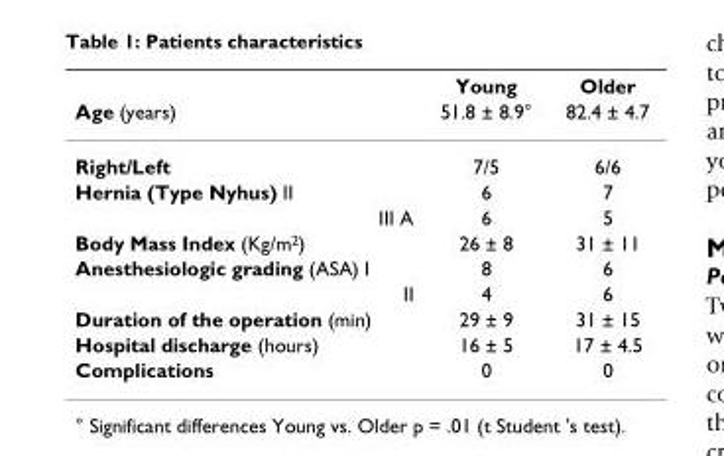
<table><thead><tr><td rowspan="2">Age (years)</td><td rowspan="2">Young 51.8 ± 8.9°</td><td rowspan="2">Older 82.4 ± 4.7</td></tr><tr></tr></thead><tbody><tr><td>Right/Left</td><td>7/5</td><td>6/6</td></tr><tr><td>Hernia (Type Nyhus) II</td><td>6</td><td>7</td></tr><tr><td>III A</td><td>6</td><td>5</td></tr><tr><td>Body Mass Index (Kg/m<sup>2</sup>)</td><td>26 ± 8</td><td>31 ± 11</td></tr><tr><td>Anesthesiologic grading (ASA) I</td><td>8</td><td>6</td></tr><tr><td>II</td><td>4</td><td>6</td></tr><tr><td>Duration of the operation (min)</td><td>29 ± 9</td><td>31 ± 15</td></tr><tr><td>Hospital discharge (hours)</td><td>16 ± 5</td><td>17 ± 4.5</td></tr><tr><td>Complications</td><td>0</td><td>0</td></tr></tbody></table>